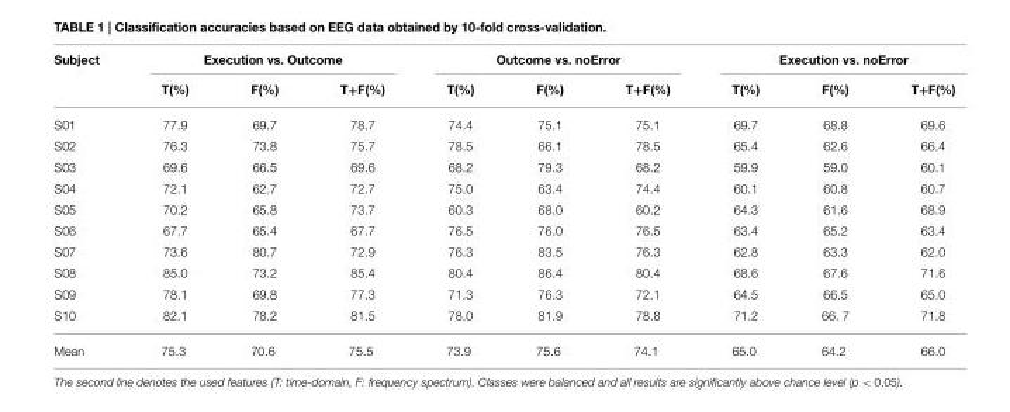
<table><thead><tr><td rowspan="2">Subject</td><td colspan="3">Execution vs. Outcome</td><td colspan="3">Outcome vs. noError</td><td colspan="3">Execution vs. noError</td></tr><tr><td>T(%)</td><td>F(%)</td><td>T+F(%)</td><td>T(%)</td><td>F(%)</td><td>T+F(%)</td><td>T(%)</td><td>F(%)</td><td>T+F(%)</td></tr></thead><tbody><tr><td>S01</td><td>77.9</td><td>69.7</td><td>78.7</td><td>74.4</td><td>75.1</td><td>75.1</td><td>69.7</td><td>68.8</td><td>69.6</td></tr><tr><td>S02</td><td>76.3</td><td>73.8</td><td>75.7</td><td>78.5</td><td>66.1</td><td>78.5</td><td>65.4</td><td>62.6</td><td>66.4</td></tr><tr><td>S03</td><td>69.6</td><td>66.5</td><td>69.6</td><td>68.2</td><td>79.3</td><td>68.2</td><td>59.9</td><td>59.0</td><td>60.1</td></tr><tr><td>S04</td><td>72.1</td><td>62.7</td><td>72.7</td><td>75.0</td><td>63.4</td><td>74.4</td><td>60.1</td><td>60.8</td><td>60.7</td></tr><tr><td>S05</td><td>70.2</td><td>65.8</td><td>73.7</td><td>60.3</td><td>68.0</td><td>60.2</td><td>64.3</td><td>61.6</td><td>68.9</td></tr><tr><td>S06</td><td>67.7</td><td>65.4</td><td>67.7</td><td>76.5</td><td>76.0</td><td>76.5</td><td>63.4</td><td>65.2</td><td>63.4</td></tr><tr><td>S07</td><td>73.6</td><td>80.7</td><td>72.9</td><td>76.3</td><td>83.5</td><td>76.3</td><td>62.8</td><td>63.3</td><td>62.0</td></tr><tr><td>S08</td><td>85.0</td><td>73.2</td><td>85.4</td><td>80.4</td><td>86.4</td><td>80.4</td><td>68.6</td><td>67.6</td><td>71.6</td></tr><tr><td>S09</td><td>78.1</td><td>69.8</td><td>77.3</td><td>71.3</td><td>76.3</td><td>72.1</td><td>64.5</td><td>66.5</td><td>65.0</td></tr><tr><td>S10</td><td>82.1</td><td>78.2</td><td>81.5</td><td>78.0</td><td>81.9</td><td>78.8</td><td>71.2</td><td>66. 7</td><td>71.8</td></tr><tr><td>Mean</td><td>75.3</td><td>70.6</td><td>75.5</td><td>73.9</td><td>75.6</td><td>74.1</td><td>65.0</td><td>64.2</td><td>66.0</td></tr></tbody></table>